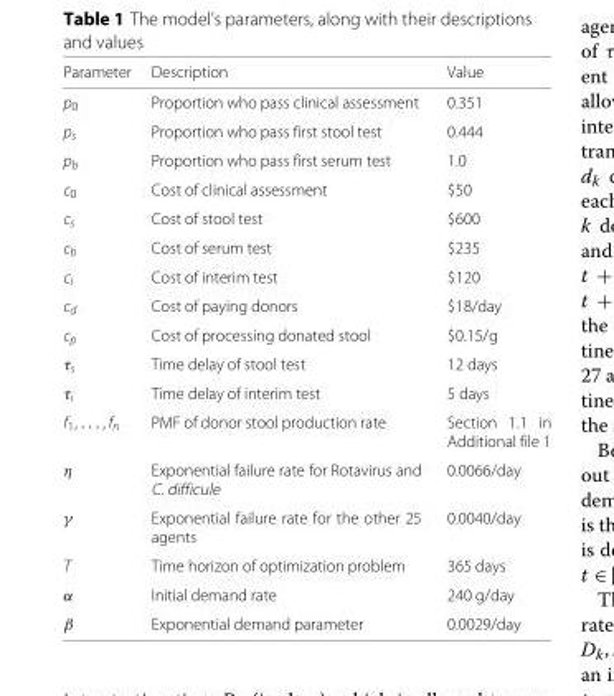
<table><thead><tr><td>Parameter</td><td>Description</td><td>Value</td></tr></thead><tbody><tr><td>p<sub>0</sub></td><td>Proportion who pass clinical assessment</td><td>0.351</td></tr><tr><td>p<sub>s</sub></td><td>Proportion who pass first stool test</td><td>0.444</td></tr><tr><td>p<sub>b</sub></td><td>Proportion who pass first serum test</td><td>1.0</td></tr><tr><td>c<sub>0</sub></td><td>Cost of clinical assessment</td><td>$50</td></tr><tr><td>c<sub>s</sub></td><td>Cost of stool test</td><td>$600</td></tr><tr><td>c<sub>b</sub></td><td>Cost of serum test</td><td>$235</td></tr><tr><td>c<sub>i</sub></td><td>Cost of interim test</td><td>$120</td></tr><tr><td>c<sub>d</sub></td><td>Cost of paying donors</td><td>$18/day</td></tr><tr><td>c<sub>p</sub></td><td>Cost of processing donated stool</td><td>$0.15/g</td></tr><tr><td>τ<sub>s</sub></td><td>Time delay of stool test</td><td>12 days</td></tr><tr><td>τ<sub>i</sub></td><td>Time delay of interim test</td><td>5 days</td></tr><tr><td>f<sub>1</sub>, . . . , f<sub>n</sub></td><td>PMF of donor stool production rate</td><td>Section 1.1 in Additional file 1</td></tr><tr><td>η</td><td>Exponential failure rate for Rotavirus and C. difficule</td><td>0.0066/day</td></tr><tr><td>γ</td><td>Exponential failure rate for the other 25 agents</td><td>0.0040/day</td></tr><tr><td>T</td><td>Time horizon of optimization problem</td><td>365 days</td></tr><tr><td>α</td><td>Initial demand rate</td><td>240 g/day</td></tr><tr><td>β</td><td>Exponential demand parameter</td><td>0.0029/day</td></tr></tbody></table>